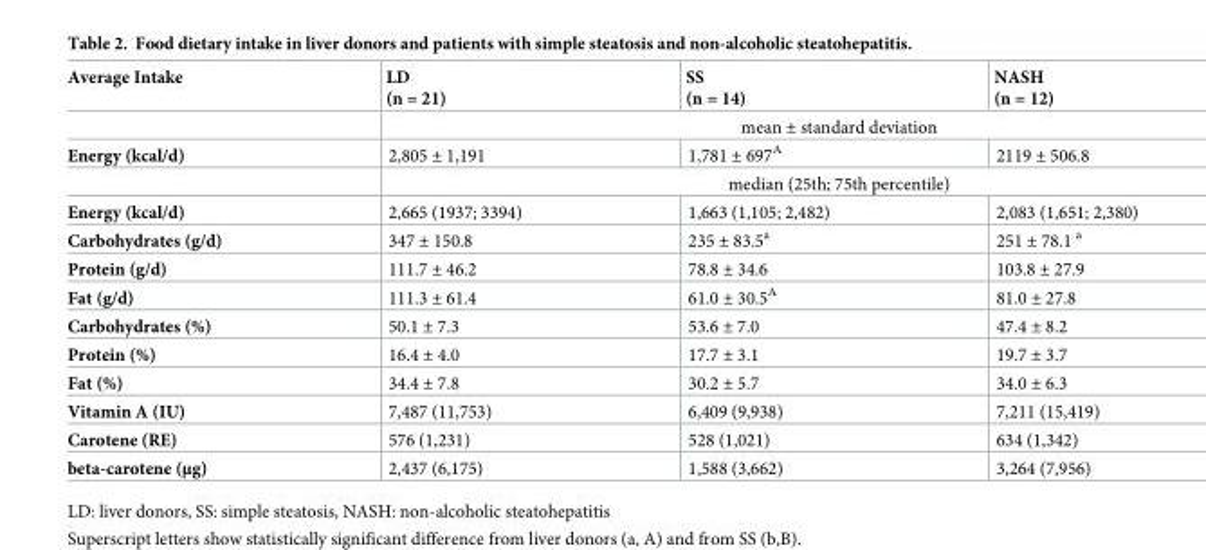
<table><thead><tr><td>Average Intake</td><td>LD (n = 21)</td><td>SS (n = 14)</td><td>NASH (n = 12)</td></tr></thead><tbody><tr><td></td><td colspan="3">mean ± standard deviation</td></tr><tr><td rowspan="2">Energy (kcal/d)</td><td>2,805 ± 1,191</td><td>1,781 ± 697<sup>A</sup></td><td>2119 ± 506.8</td></tr><tr><td colspan="3">median (25th; 75th percentile)</td></tr><tr><td>Energy (kcal/d)</td><td>2,665 (1937; 3394)</td><td>1,663 (1,105; 2,482)</td><td>2,083 (1,651; 2,380)</td></tr><tr><td>Carbohydrates (g/d)</td><td>347 ± 150.8</td><td>235 ± 83.5<sup>a</sup></td><td>251 ± 78.1 <sup>a</sup></td></tr><tr><td>Protein (g/d)</td><td>111.7 ± 46.2</td><td>78.8 ± 34.6</td><td>103.8 ± 27.9</td></tr><tr><td>Fat (g/d)</td><td>111.3 ± 61.4</td><td>61.0 ± 30.5<sup>A</sup></td><td>81.0 ± 27.8</td></tr><tr><td>Carbohydrates (%)</td><td>50.1 ± 7.3</td><td>53.6 ± 7.0</td><td>47.4 ± 8.2</td></tr><tr><td>Protein (%)</td><td>16.4 ± 4.0</td><td>17.7 ± 3.1</td><td>19.7 ± 3.7</td></tr><tr><td>Fat (%)</td><td>34.4 ± 7.8</td><td>30.2 ± 5.7</td><td>34.0 ± 6.3</td></tr><tr><td>Vitamin A (IU)</td><td>7,487 (11,753)</td><td>6,409 (9,938)</td><td>7,211 (15,419)</td></tr><tr><td>Carotene (RE)</td><td>576 (1,231)</td><td>528 (1,021)</td><td>634 (1,342)</td></tr><tr><td>beta-carotene (μg)</td><td>2,437 (6,175)</td><td>1,588 (3,662)</td><td>3,264 (7,956)</td></tr></tbody></table>